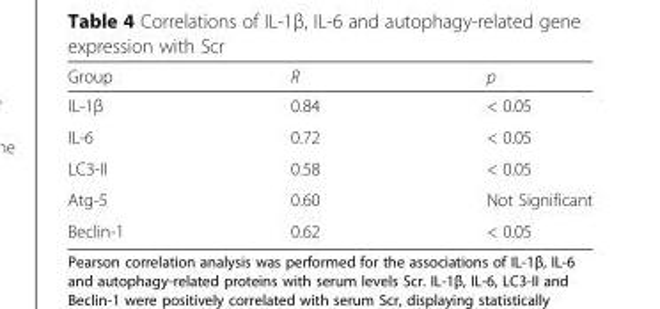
<table><thead><tr><td>Group</td><td>R</td><td>p</td></tr></thead><tbody><tr><td>IL-1β</td><td>0.84</td><td>&lt; 0.05</td></tr><tr><td>IL-6</td><td>0.72</td><td>&lt; 0.05</td></tr><tr><td>LC3-II</td><td>0.58</td><td>&lt; 0.05</td></tr><tr><td>Atg-5</td><td>0.60</td><td>Not Significant</td></tr><tr><td>Beclin-1</td><td>0.62</td><td>&lt; 0.05</td></tr></tbody></table>